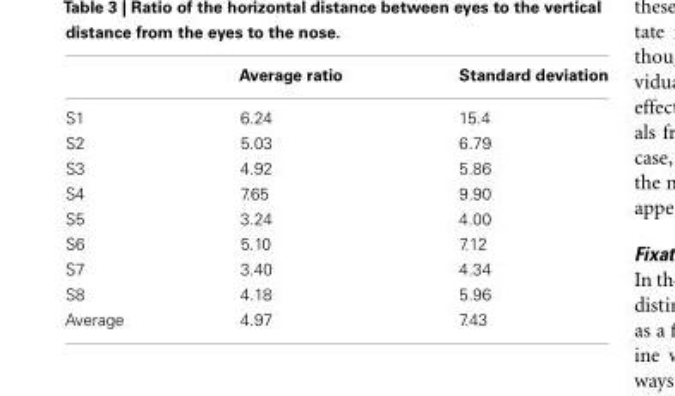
<table><thead><tr><td></td><td>Average ratio</td><td>Standard deviation</td></tr></thead><tbody><tr><td>S1</td><td>6.24</td><td>15.4</td></tr><tr><td>S2</td><td>5.03</td><td>6.79</td></tr><tr><td>S3</td><td>4.92</td><td>5.86</td></tr><tr><td>S4</td><td>7.65</td><td>9.90</td></tr><tr><td>S5</td><td>3.24</td><td>4.00</td></tr><tr><td>S6</td><td>5.10</td><td>7.12</td></tr><tr><td>S7</td><td>3.40</td><td>4.34</td></tr><tr><td>S8</td><td>4.18</td><td>5.96</td></tr><tr><td>Average</td><td>4.97</td><td>7.43</td></tr></tbody></table>